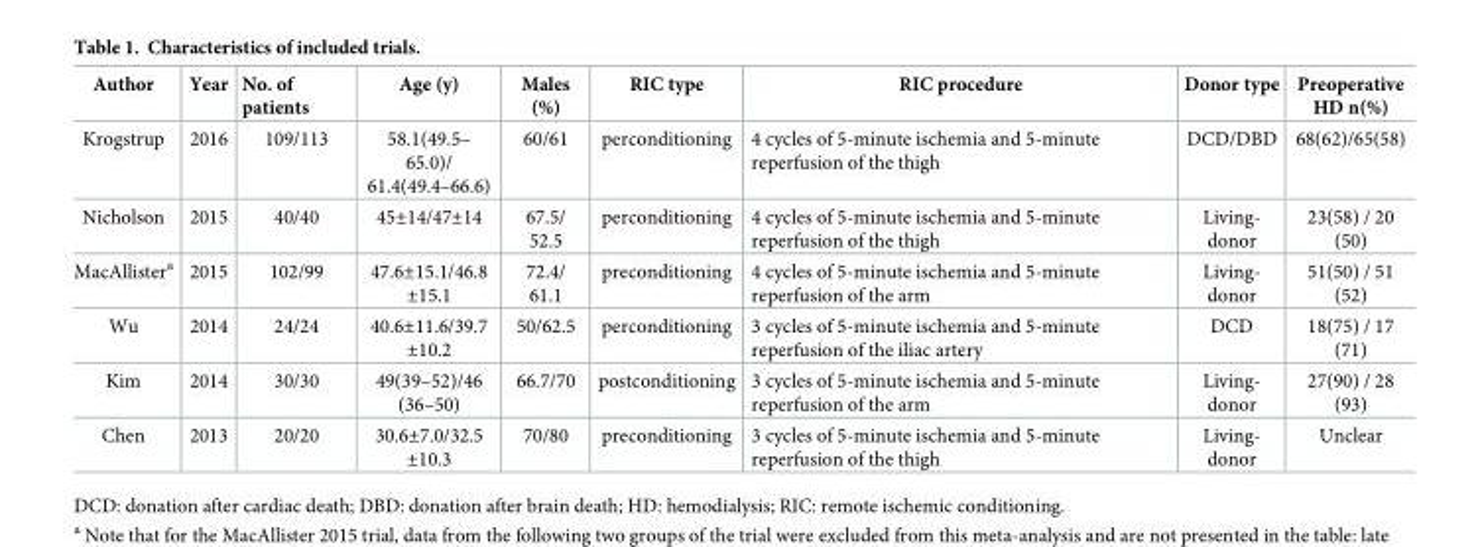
<table><thead><tr><td>Author</td><td>Year</td><td>No. of patients</td><td>Age (y)</td><td>Males (%)</td><td>RIC type</td><td>RIC procedure</td><td>Donor type</td><td>Preoperative HD n(%)</td></tr></thead><tbody><tr><td>Krogstrup</td><td>2016</td><td>109/113</td><td>58.1(49.5– 65.0)/ 61.4(49.4–66.6)</td><td>60/61</td><td>perconditioning</td><td>4 cycles of 5-minute ischemia and 5-minute reperfusion of the thigh</td><td>DCD/DBD</td><td>68(62)/65(58)</td></tr><tr><td>Nicholson</td><td>2015</td><td>40/40</td><td>45±14/47±14</td><td>67.5/ 52.5</td><td>perconditioning</td><td>4 cycles of 5-minute ischemia and 5-minute reperfusion of the thigh</td><td>Living- donor</td><td>23(58) / 20 (50)</td></tr><tr><td>MacAllister<sup>a</sup></td><td>2015</td><td>102/99</td><td>47.6±15.1/46.8 ±15.1</td><td>72.4/ 61.1</td><td>preconditioning</td><td>4 cycles of 5-minute ischemia and 5-minute reperfusion of the arm</td><td>Living- donor</td><td>51(50) / 51 (52)</td></tr><tr><td>Wu</td><td>2014</td><td>24/24</td><td>40.6±11.6/39.7 ±10.2</td><td>50/62.5</td><td>perconditioning</td><td>3 cycles of 5-minute ischemia and 5-minute reperfusion of the iliac artery</td><td>DCD</td><td>18(75) / 17 (71)</td></tr><tr><td>Kim</td><td>2014</td><td>30/30</td><td>49(39–52)/46 (36–50)</td><td>66.7/70</td><td>postconditioning</td><td>3 cycles of 5-minute ischemia and 5-minute reperfusion of the arm</td><td>Living- donor</td><td>27(90) / 28 (93)</td></tr><tr><td>Chen</td><td>2013</td><td>20/20</td><td>30.6±7.0/32.5 ±10.3</td><td>70/80</td><td>preconditioning</td><td>3 cycles of 5-minute ischemia and 5-minute reperfusion of the thigh</td><td>Living- donor</td><td>Unclear</td></tr></tbody></table>